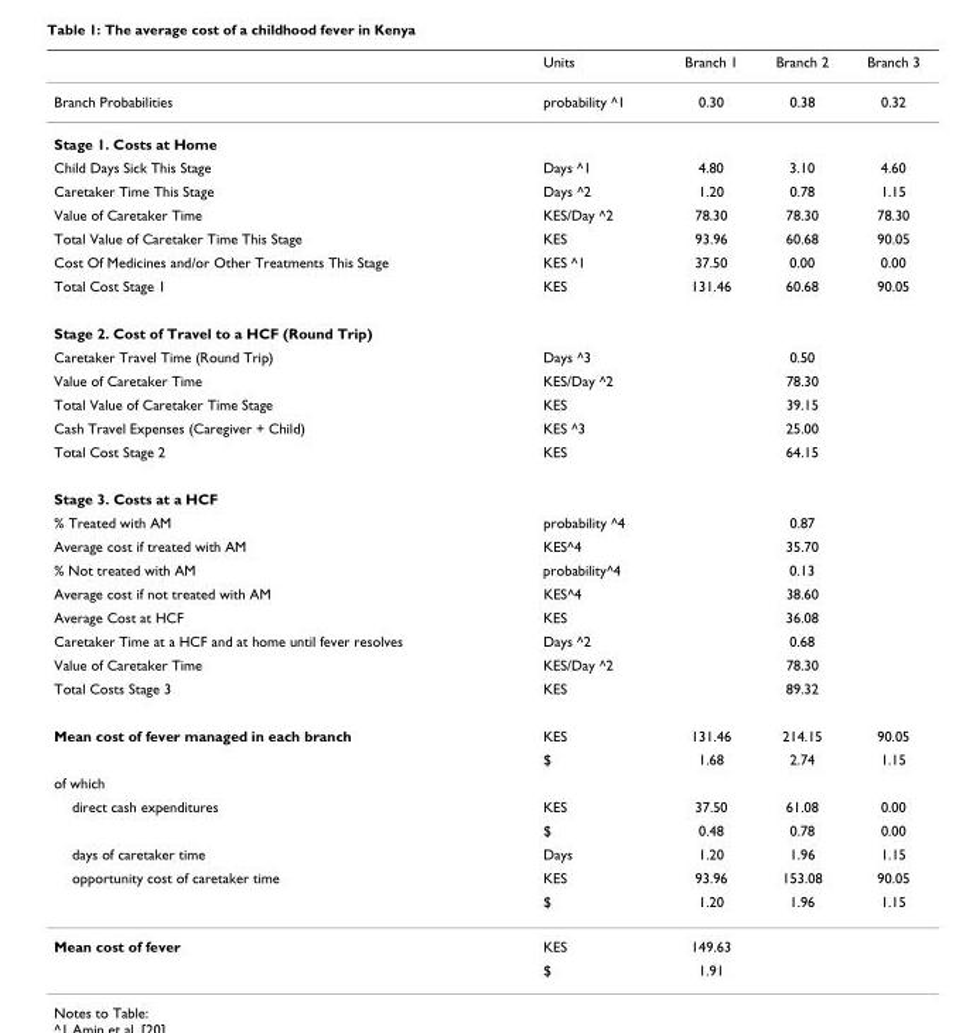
<table><thead><tr><td></td><td>Units</td><td>Branch 1</td><td>Branch 2</td><td>Branch 3</td></tr></thead><tbody><tr><td>Branch Probabilities</td><td>probability ^1</td><td>0.30</td><td>0.38</td><td>0.32</td></tr><tr><td colspan="5">Stage 1. Costs at Home</td></tr><tr><td>Child Days Sick This Stage</td><td>Days ^1</td><td>4.80</td><td>3.10</td><td>4.60</td></tr><tr><td>Caretaker Time This Stage</td><td>Days ^2</td><td>1.20</td><td>0.78</td><td>1.15</td></tr><tr><td>Value of Caretaker Time</td><td>KES/Day ^2</td><td>78.30</td><td>78.30</td><td>78.30</td></tr><tr><td>Total Value of Caretaker Time This Stage</td><td>KES</td><td>93.96</td><td>60.68</td><td>90.05</td></tr><tr><td>Cost Of Medicines and/or Other Treatments This Stage</td><td>KES ^1</td><td>37.50</td><td>0.00</td><td>0.00</td></tr><tr><td>Total Cost Stage 1</td><td>KES</td><td>131.46</td><td>60.68</td><td>90.05</td></tr><tr><td colspan="5">Stage 2. Cost of Travel to a HCF (Round Trip)</td></tr><tr><td>Caretaker Travel Time (Round Trip)</td><td>Days ^3</td><td></td><td>0.50</td><td></td></tr><tr><td>Value of Caretaker Time</td><td>KES/Day ^2</td><td></td><td>78.30</td><td></td></tr><tr><td>Total Value of Caretaker Time Stage</td><td>KES</td><td></td><td>39.15</td><td></td></tr><tr><td>Cash Travel Expenses (Caregiver + Child)</td><td>KES ^3</td><td></td><td>25.00</td><td></td></tr><tr><td>Total Cost Stage 2</td><td>KES</td><td></td><td>64.15</td><td></td></tr><tr><td colspan="5">Stage 3. Costs at a HCF</td></tr><tr><td>% Treated with AM</td><td>probability ^4</td><td></td><td>0.87</td><td></td></tr><tr><td>Average cost if treated with AM</td><td>KES^4</td><td></td><td>35.70</td><td></td></tr><tr><td>% Not treated with AM</td><td>probability^4</td><td></td><td>0.13</td><td></td></tr><tr><td>Average cost if not treated with AM</td><td>KES^4</td><td></td><td>38.60</td><td></td></tr><tr><td>Average Cost at HCF</td><td>KES</td><td></td><td>36.08</td><td></td></tr><tr><td>Caretaker Time at a HCF and at home until fever resolves</td><td>Days ^2</td><td></td><td>0.68</td><td></td></tr><tr><td>Value of Caretaker Time</td><td>KES/Day ^2</td><td></td><td>78.30</td><td></td></tr><tr><td>Total Costs Stage 3</td><td>KES</td><td></td><td>89.32</td><td></td></tr><tr><td rowspan="2">Mean cost of fever managed in each branch</td><td>KES</td><td>131.46</td><td>214.15</td><td>90.05</td></tr><tr><td>$</td><td>1.68</td><td>2.74</td><td>1.15</td></tr><tr><td colspan="5">of which</td></tr><tr><td rowspan="2">direct cash expenditures</td><td>KES</td><td>37.50</td><td>61.08</td><td>0.00</td></tr><tr><td>$</td><td>0.48</td><td>0.78</td><td>0.00</td></tr><tr><td>days of caretaker time</td><td>Days</td><td>1.20</td><td>1.96</td><td>1.15</td></tr><tr><td rowspan="2">opportunity cost of caretaker time</td><td>KES</td><td>93.96</td><td>153.08</td><td>90.05</td></tr><tr><td>$</td><td>1.20</td><td>1.96</td><td>1.15</td></tr><tr><td rowspan="2">Mean cost of fever</td><td>KES</td><td>149.63</td><td></td><td></td></tr><tr><td>$</td><td>1.91</td><td></td><td></td></tr></tbody></table>